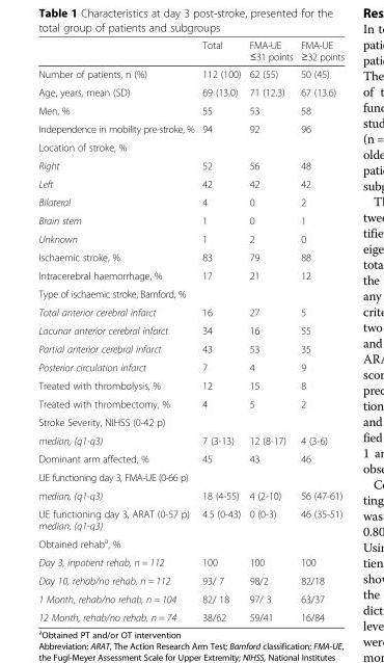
<table><thead><tr><td></td><td>Total</td><td>FMA-UE ≤31 points</td><td>FMA-UE ≥32 points</td></tr></thead><tbody><tr><td>Number of patients, n (%)</td><td>112 (100)</td><td>62 (55)</td><td>50 (45)</td></tr><tr><td>Age, years, mean (SD)</td><td>69 (13.0)</td><td>71 (12.3)</td><td>67 (13.6)</td></tr><tr><td>Men, %</td><td>55</td><td>53</td><td>58</td></tr><tr><td>Independence in mobility pre-stroke, %</td><td>94</td><td>92</td><td>96</td></tr><tr><td colspan="4">Location of stroke, %</td></tr><tr><td>Right</td><td>52</td><td>56</td><td>48</td></tr><tr><td>Left</td><td>42</td><td>42</td><td>42</td></tr><tr><td>Bilateral</td><td>4</td><td>0</td><td>2</td></tr><tr><td>Brain stem</td><td>1</td><td>0</td><td>1</td></tr><tr><td>Unknown</td><td>1</td><td>2</td><td>0</td></tr><tr><td>Ischaemic stroke, %</td><td>83</td><td>79</td><td>88</td></tr><tr><td>Intracerebral haemorrhage, %</td><td>17</td><td>21</td><td>12</td></tr><tr><td colspan="4">Type of ischaemic stroke, Bamford, %</td></tr><tr><td>Total anterior cerebral infarct</td><td>16</td><td>27</td><td>5</td></tr><tr><td>Lacunar anterior cerebral infarct</td><td>34</td><td>16</td><td>55</td></tr><tr><td>Partial anterior cerebral infarct</td><td>43</td><td>53</td><td>35</td></tr><tr><td>Posterior circulation infarct</td><td>7</td><td>4</td><td>9</td></tr><tr><td>Treated with thrombolysis, %</td><td>12</td><td>15</td><td>8</td></tr><tr><td>Treated with thrombectomy, %</td><td>4</td><td>5</td><td>2</td></tr><tr><td colspan="4">Stroke Severity, NIHSS (0-42 p)</td></tr><tr><td>median, (q1-q3)</td><td>7 (3-13)</td><td>12 (8-17)</td><td>4 (3-6)</td></tr><tr><td>Dominant arm affected, %</td><td>45</td><td>43</td><td>46</td></tr><tr><td colspan="4">UE functioning day 3, FMA-UE (0-66 p)</td></tr><tr><td>median, (q1-q3)</td><td>18 (4-55)</td><td>4 (2-10)</td><td>56 (47-61)</td></tr><tr><td>UE functioning day 3, ARAT (0-57 p) median, (q1-q3)</td><td>4.5 (0-43)</td><td>0 (0-3)</td><td>46 (35-51)</td></tr><tr><td colspan="4">Obtained rehab<sup>a</sup>, %</td></tr><tr><td>Day 3, inpatient rehab, n = 112</td><td>100</td><td>100</td><td>100</td></tr><tr><td>Day 10, rehab/no rehab, n = 112</td><td>93/ 7</td><td>98/2</td><td>82/18</td></tr><tr><td>1 Month, rehab/no rehab, n = 104</td><td>82/ 18</td><td>97/ 3</td><td>63/37</td></tr><tr><td>12 Month, rehab/no rehab, n = 74</td><td>38/62</td><td>59/41</td><td>16/84</td></tr></tbody></table>